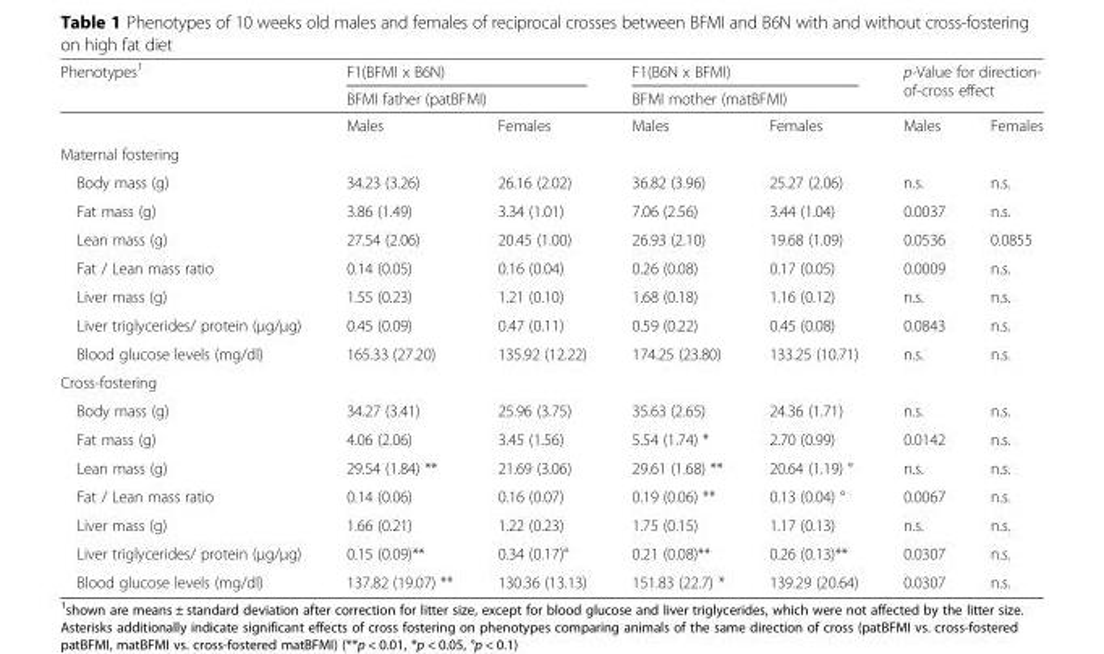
<table><thead><tr><td rowspan="3">Phenotypes<sup>1</sup></td><td rowspan="2" colspan="2">F1(BFMI x B6N) BFMI father (patBFMI)</td><td rowspan="2" colspan="2">F1(B6N x BFMI) BFMI mother (matBFMI)</td><td rowspan="2" colspan="2">p-Value for direction- of-cross effect</td></tr><tr></tr><tr><td>Males</td><td>Females</td><td>Males</td><td>Females</td><td>Males</td><td>Females</td></tr></thead><tbody><tr><td colspan="7">Maternal fostering</td></tr><tr><td>Body mass (g)</td><td>34.23 (3.26)</td><td>26.16 (2.02)</td><td>36.82 (3.96)</td><td>25.27 (2.06)</td><td>n.s.</td><td>n.s.</td></tr><tr><td>Fat mass (g)</td><td>3.86 (1.49)</td><td>3.34 (1.01)</td><td>7.06 (2.56)</td><td>3.44 (1.04)</td><td>0.0037</td><td>n.s.</td></tr><tr><td>Lean mass (g)</td><td>27.54 (2.06)</td><td>20.45 (1.00)</td><td>26.93 (2.10)</td><td>19.68 (1.09)</td><td>0.0536</td><td>0.0855</td></tr><tr><td>Fat / Lean mass ratio</td><td>0.14 (0.05)</td><td>0.16 (0.04)</td><td>0.26 (0.08)</td><td>0.17 (0.05)</td><td>0.0009</td><td>n.s.</td></tr><tr><td>Liver mass (g)</td><td>1.55 (0.23)</td><td>1.21 (0.10)</td><td>1.68 (0.18)</td><td>1.16 (0.12)</td><td>n.s.</td><td>n.s.</td></tr><tr><td>Liver triglycerides/ protein (μg/μg)</td><td>0.45 (0.09)</td><td>0.47 (0.11)</td><td>0.59 (0.22)</td><td>0.45 (0.08)</td><td>0.0843</td><td>n.s.</td></tr><tr><td>Blood glucose levels (mg/dl)</td><td>165.33 (27.20)</td><td>135.92 (12.22)</td><td>174.25 (23.80)</td><td>133.25 (10.71)</td><td>n.s.</td><td>n.s.</td></tr><tr><td colspan="7">Cross-fostering</td></tr><tr><td>Body mass (g)</td><td>34.27 (3.41)</td><td>25.96 (3.75)</td><td>35.63 (2.65)</td><td>24.36 (1.71)</td><td>n.s.</td><td>n.s.</td></tr><tr><td>Fat mass (g)</td><td>4.06 (2.06)</td><td>3.45 (1.56)</td><td>5.54 (1.74) *</td><td>2.70 (0.99)</td><td>0.0142</td><td>n.s.</td></tr><tr><td>Lean mass (g)</td><td>29.54 (1.84) **</td><td>21.69 (3.06)</td><td>29.61 (1.68) **</td><td>20.64 (1.19) °</td><td>n.s.</td><td>n.s.</td></tr><tr><td>Fat / Lean mass ratio</td><td>0.14 (0.06)</td><td>0.16 (0.07)</td><td>0.19 (0.06) **</td><td>0.13 (0.04) °</td><td>0.0067</td><td>n.s.</td></tr><tr><td>Liver mass (g)</td><td>1.66 (0.21)</td><td>1.22 (0.23)</td><td>1.75 (0.15)</td><td>1.17 (0.13)</td><td>n.s.</td><td>n.s.</td></tr><tr><td>Liver triglycerides/ protein (μg/μg)</td><td>0.15 (0.09)**</td><td>0.34 (0.17)°</td><td>0.21 (0.08)**</td><td>0.26 (0.13)**</td><td>0.0307</td><td>n.s.</td></tr><tr><td>Blood glucose levels (mg/dl)</td><td>137.82 (19.07) **</td><td>130.36 (13.13)</td><td>151.83 (22.7) *</td><td>139.29 (20.64)</td><td>0.0307</td><td>n.s.</td></tr></tbody></table>